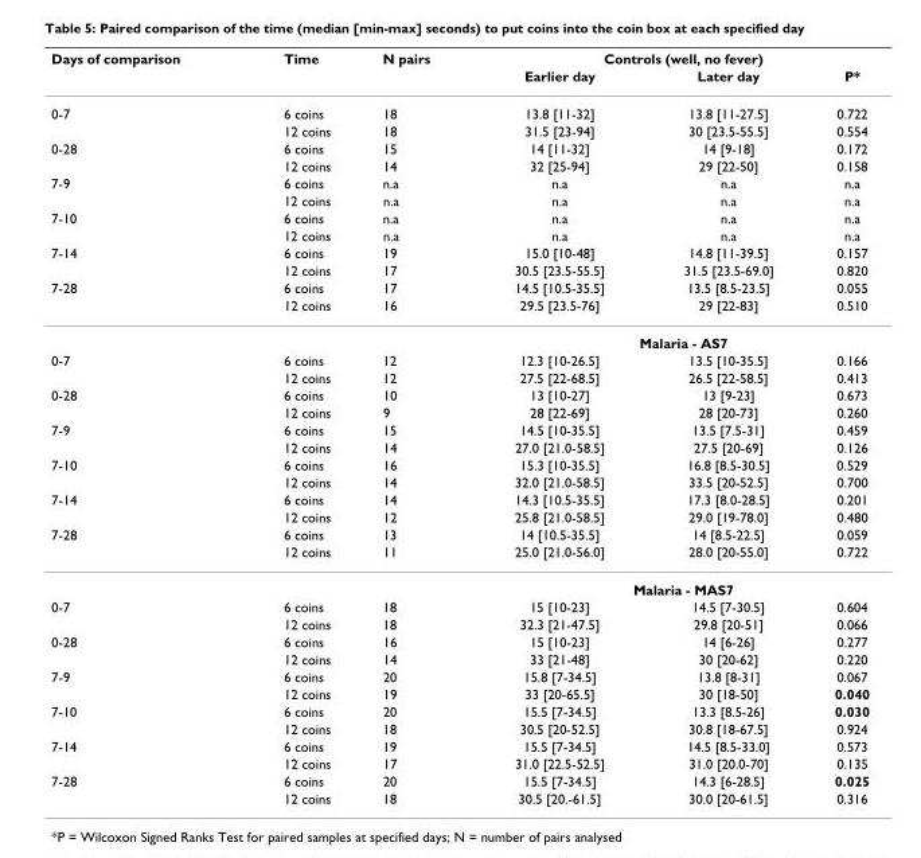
<table><thead><tr><td rowspan="2">Days of comparison</td><td rowspan="2">Time</td><td rowspan="2">N pairs</td><td colspan="3">Controls (well, no fever)</td></tr><tr><td>Earlier day</td><td>Later day</td><td>P*</td></tr></thead><tbody><tr><td rowspan="2">0-7</td><td>6 coins</td><td>18</td><td>13.8 [11-32]</td><td>13.8 [11-27.5]</td><td>0.722</td></tr><tr><td>12 coins</td><td>18</td><td>31.5 [23-94]</td><td>30 [23.5-55.5]</td><td>0.554</td></tr><tr><td rowspan="2">0-28</td><td>6 coins</td><td>15</td><td>14 [11-32]</td><td>14 [9-18]</td><td>0.172</td></tr><tr><td>12 coins</td><td>14</td><td>32 [25-94]</td><td>29 [22-50]</td><td>0.158</td></tr><tr><td rowspan="2">7-9</td><td>6 coins</td><td>n.a</td><td>n.a</td><td>n.a</td><td>n.a</td></tr><tr><td>12 coins</td><td>n.a</td><td>n.a</td><td>n.a</td><td>n.a</td></tr><tr><td rowspan="2">7-10</td><td>6 coins</td><td>n.a</td><td>n.a</td><td>n.a</td><td>n.a</td></tr><tr><td>12 coins</td><td>n.a</td><td>n.a</td><td>n.a</td><td>n.a</td></tr><tr><td rowspan="2">7-14</td><td>6 coins</td><td>19</td><td>15.0 [10-48]</td><td>14.8 [11-39.5]</td><td>0.157</td></tr><tr><td>12 coins</td><td>17</td><td>30.5 [23.5-55.5]</td><td>31.5 [23.5-69.0]</td><td>0.820</td></tr><tr><td rowspan="3">7-28</td><td>6 coins</td><td>17</td><td>14.5 [10.5-35.5]</td><td>13.5 [8.5-23.5]</td><td>0.055</td></tr><tr><td>12 coins</td><td>16</td><td>29.5 [23.5-76]</td><td>29 [22-83]</td><td>0.510</td></tr><tr><td></td><td></td><td colspan="3">Malaria - AS7</td></tr><tr><td rowspan="2">0-7</td><td>6 coins</td><td>12</td><td>12.3 [10-26.5]</td><td>13.5 [10-35.5]</td><td>0.166</td></tr><tr><td>12 coins</td><td>12</td><td>27.5 [22-68.5]</td><td>26.5 [22-58.5]</td><td>0.413</td></tr><tr><td rowspan="2">0-28</td><td>6 coins</td><td>10</td><td>13 [10-27]</td><td>13 [9-23]</td><td>0.673</td></tr><tr><td>12 coins</td><td>9</td><td>28 [22-69]</td><td>28 [20-73]</td><td>0.260</td></tr><tr><td rowspan="2">7-9</td><td>6 coins</td><td>15</td><td>14.5 [10-35.5]</td><td>13.5 [7.5-31]</td><td>0.459</td></tr><tr><td>12 coins</td><td>14</td><td>27.0 [21.0-58.5]</td><td>27.5 [20-69]</td><td>0.126</td></tr><tr><td rowspan="2">7-10</td><td>6 coins</td><td>16</td><td>15.3 [10-35.5]</td><td>16.8 [8.5-30.5]</td><td>0.529</td></tr><tr><td>12 coins</td><td>14</td><td>32.0 [21.0-58.5]</td><td>33.5 [20-52.5]</td><td>0.700</td></tr><tr><td rowspan="2">7-14</td><td>6 coins</td><td>14</td><td>14.3 [10.5-35.5]</td><td>17.3 [8.0-28.5]</td><td>0.201</td></tr><tr><td>12 coins</td><td>12</td><td>25.8 [21.0-58.5]</td><td>29.0 [19-78.0]</td><td>0.480</td></tr><tr><td rowspan="3">7-28</td><td>6 coins</td><td>13</td><td>14 [10.5-35.5]</td><td>14 [8.5-22.5]</td><td>0.059</td></tr><tr><td>12 coins</td><td>11</td><td>25.0 [21.0-56.0]</td><td>28.0 [20-55.0]</td><td>0.722</td></tr><tr><td></td><td></td><td colspan="3">Malaria - MAS7</td></tr><tr><td rowspan="2">0-7</td><td>6 coins</td><td>18</td><td>15 [10-23]</td><td>14.5 [7-30.5]</td><td>0.604</td></tr><tr><td>12 coins</td><td>18</td><td>32.3 [21-47.5]</td><td>29.8 [20-51]</td><td>0.066</td></tr><tr><td rowspan="2">0-28</td><td>6 coins</td><td>16</td><td>15 [10-23]</td><td>14 [6-26]</td><td>0.277</td></tr><tr><td>12 coins</td><td>14</td><td>33 [21-48]</td><td>30 [20-62]</td><td>0.220</td></tr><tr><td rowspan="2">7-9</td><td>6 coins</td><td>20</td><td>15.8 [7-34.5]</td><td>13.8 [8-31]</td><td>0.067</td></tr><tr><td>12 coins</td><td>19</td><td>33 [20-65.5]</td><td>30 [18-50]</td><td>0.040</td></tr><tr><td rowspan="2">7-10</td><td>6 coins</td><td>20</td><td>15.5 [7-34.5]</td><td>13.3 [8.5-26]</td><td>0.030</td></tr><tr><td>12 coins</td><td>18</td><td>30.5 [20-52.5]</td><td>30.8 [18-67.5]</td><td>0.924</td></tr><tr><td rowspan="2">7-14</td><td>6 coins</td><td>19</td><td>15.5 [7-34.5]</td><td>14.5 [8.5-33.0]</td><td>0.573</td></tr><tr><td>12 coins</td><td>17</td><td>31.0 [22.5-52.5]</td><td>31.0 [20.0-70]</td><td>0.135</td></tr><tr><td rowspan="2">7-28</td><td>6 coins</td><td>20</td><td>15.5 [7-34.5]</td><td>14.3 [6-28.5]</td><td>0.025</td></tr><tr><td>12 coins</td><td>18</td><td>30.5 [20.-61.5]</td><td>30.0 [20-61.5]</td><td>0.316</td></tr></tbody></table>